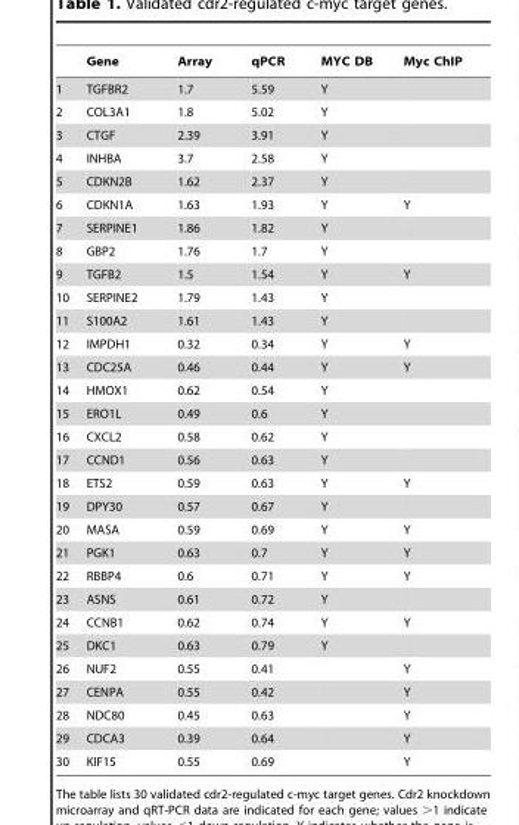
<table><thead><tr><td></td><td>Gene</td><td>Array</td><td>qPCR</td><td>MYC DB</td><td>Myc ChIP</td></tr></thead><tbody><tr><td>1</td><td>TGFBR2</td><td>1.7</td><td>5.59</td><td>Y</td><td></td></tr><tr><td>2</td><td>COL3A1</td><td>1.8</td><td>5.02</td><td>Y</td><td></td></tr><tr><td>3</td><td>CTGF</td><td>2.39</td><td>3.91</td><td>Y</td><td></td></tr><tr><td>4</td><td>INHBA</td><td>3.7</td><td>2.58</td><td>Y</td><td></td></tr><tr><td>5</td><td>CDKN2B</td><td>1.62</td><td>2.37</td><td>Y</td><td></td></tr><tr><td>6</td><td>CDKN1A</td><td>1.63</td><td>1.93</td><td>Y</td><td>Y</td></tr><tr><td>7</td><td>SERPINE1</td><td>1.86</td><td>1.82</td><td>Y</td><td></td></tr><tr><td>8</td><td>GBP2</td><td>1.76</td><td>1.7</td><td>Y</td><td></td></tr><tr><td>9</td><td>TGFB2</td><td>1.5</td><td>1.54</td><td>Y</td><td>Y</td></tr><tr><td>10</td><td>SERPINE2</td><td>1.79</td><td>1.43</td><td>Y</td><td></td></tr><tr><td>11</td><td>S100A2</td><td>1.61</td><td>1.43</td><td>Y</td><td></td></tr><tr><td>12</td><td>IMPDH1</td><td>0.32</td><td>0.34</td><td>Y</td><td>Y</td></tr><tr><td>13</td><td>CDC25A</td><td>0.46</td><td>0.44</td><td>Y</td><td>Y</td></tr><tr><td>14</td><td>HMOX1</td><td>0.62</td><td>0.54</td><td>Y</td><td></td></tr><tr><td>15</td><td>ERO1L</td><td>0.49</td><td>0.6</td><td>Y</td><td></td></tr><tr><td>16</td><td>CXCL2</td><td>0.58</td><td>0.62</td><td>Y</td><td></td></tr><tr><td>17</td><td>CCND1</td><td>0.56</td><td>0.63</td><td>Y</td><td></td></tr><tr><td>18</td><td>ETS2</td><td>0.59</td><td>0.63</td><td>Y</td><td>Y</td></tr><tr><td>19</td><td>DPY30</td><td>0.57</td><td>0.67</td><td>Y</td><td></td></tr><tr><td>20</td><td>MASA</td><td>0.59</td><td>0.69</td><td>Y</td><td>Y</td></tr><tr><td>21</td><td>PGK1</td><td>0.63</td><td>0.7</td><td>Y</td><td>Y</td></tr><tr><td>22</td><td>RBBP4</td><td>0.6</td><td>0.71</td><td>Y</td><td>Y</td></tr><tr><td>23</td><td>ASNS</td><td>0.61</td><td>0.72</td><td>Y</td><td></td></tr><tr><td>24</td><td>CCNB1</td><td>0.62</td><td>0.74</td><td>Y</td><td>Y</td></tr><tr><td>25</td><td>DKC1</td><td>0.63</td><td>0.79</td><td>Y</td><td></td></tr><tr><td>26</td><td>NUF2</td><td>0.55</td><td>0.41</td><td></td><td>Y</td></tr><tr><td>27</td><td>CENPA</td><td>0.55</td><td>0.42</td><td></td><td>Y</td></tr><tr><td>28</td><td>NDC80</td><td>0.45</td><td>0.63</td><td></td><td>Y</td></tr><tr><td>29</td><td>CDCA3</td><td>0.39</td><td>0.64</td><td></td><td>Y</td></tr><tr><td>30</td><td>KIF15</td><td>0.55</td><td>0.69</td><td></td><td>Y</td></tr></tbody></table>